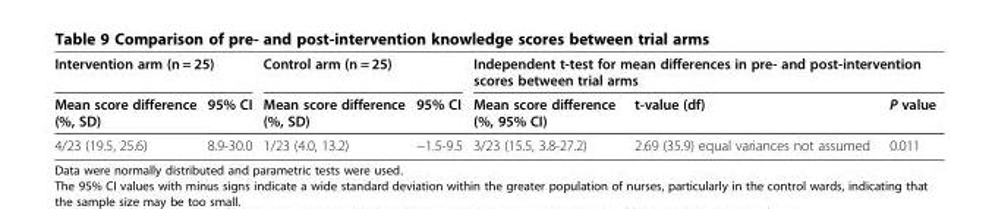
<table><thead><tr><td colspan="2">Intervention arm (n = 25)</td><td colspan="2">Control arm (n = 25)</td><td colspan="3">Independent t-test for mean differences in pre- and post-intervention scores between trial arms</td></tr><tr><td>Mean score difference (%, SD)</td><td>95% CI</td><td>Mean score difference (%, SD)</td><td>95% CI</td><td>Mean score difference (%, 95% CI)</td><td>t-value (df)</td><td>P value</td></tr></thead><tbody><tr><td>4/23 (19.5, 25.6)</td><td>8.9-30.0</td><td>1/23 (4.0, 13.2)</td><td>−1.5-9.5</td><td>3/23 (15.5, 3.8-27.2)</td><td>2.69 (35.9) equal variances not assumed</td><td>0.011</td></tr></tbody></table>